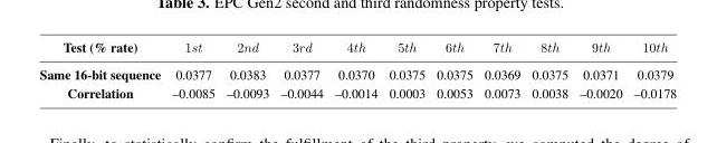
<table><thead><tr><td>Test (% rate)</td><td>1st</td><td>2nd</td><td>3rd</td><td>4th</td><td>5th</td><td>6th</td><td>7th</td><td>8th</td><td>9th</td><td>10th</td></tr></thead><tbody><tr><td>Same 16-bit sequence</td><td>0.0377</td><td>0.0383</td><td>0.0377</td><td>0.0370</td><td>0.0375</td><td>0.0375</td><td>0.0369</td><td>0.0375</td><td>0.0371</td><td>0.0379</td></tr><tr><td>Correlation</td><td>–0.0085</td><td>–0.0093</td><td>–0.0044</td><td>–0.0014</td><td>0.0003</td><td>0.0053</td><td>0.0073</td><td>0.0038</td><td>–0.0020</td><td>–0.0178</td></tr></tbody></table>